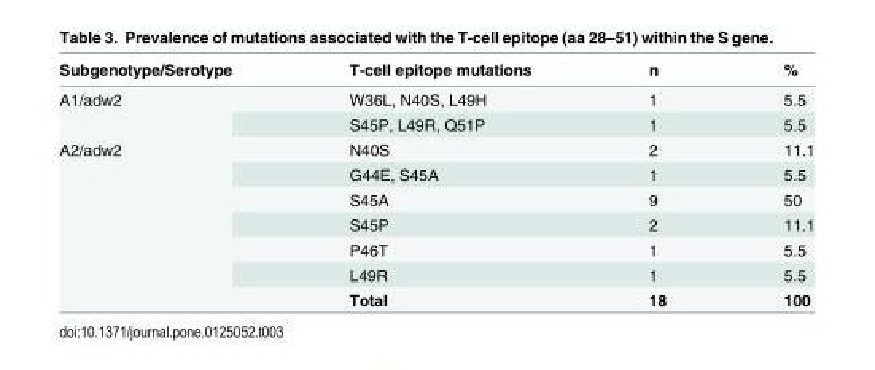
<table><thead><tr><td>Subgenotype/Serotype</td><td>T-cell epitope mutations</td><td>n</td><td>%</td></tr></thead><tbody><tr><td rowspan="2">A1/adw2</td><td>W36L, N40S, L49H</td><td>1</td><td>5.5</td></tr><tr><td>S45P, L49R, Q51P</td><td>1</td><td>5.5</td></tr><tr><td rowspan="7">A2/adw2</td><td>N40S</td><td>2</td><td>11.1</td></tr><tr><td>G44E, S45A</td><td>1</td><td>5.5</td></tr><tr><td>S45A</td><td>9</td><td>50</td></tr><tr><td>S45P</td><td>2</td><td>11.1</td></tr><tr><td>P46T</td><td>1</td><td>5.5</td></tr><tr><td>L49R</td><td>1</td><td>5.5</td></tr><tr><td>Total</td><td>18</td><td>100</td></tr></tbody></table>